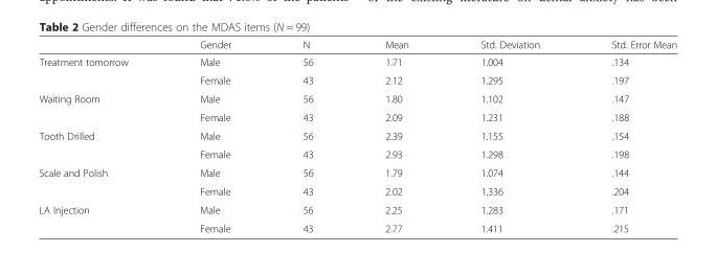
<table><thead><tr><td></td><td>Gender</td><td>N</td><td>Mean</td><td>Std. Deviation</td><td>Std. Error Mean</td></tr></thead><tbody><tr><td rowspan="2">Treatment tomorrow</td><td>Male</td><td>56</td><td>1.71</td><td>1.004</td><td>.134</td></tr><tr><td>Female</td><td>43</td><td>2.12</td><td>1.295</td><td>.197</td></tr><tr><td rowspan="2">Waiting Room</td><td>Male</td><td>56</td><td>1.80</td><td>1.102</td><td>.147</td></tr><tr><td>Female</td><td>43</td><td>2.09</td><td>1.231</td><td>.188</td></tr><tr><td rowspan="2">Tooth Drilled</td><td>Male</td><td>56</td><td>2.39</td><td>1.155</td><td>.154</td></tr><tr><td>Female</td><td>43</td><td>2.93</td><td>1.298</td><td>.198</td></tr><tr><td rowspan="2">Scale and Polish</td><td>Male</td><td>56</td><td>1.79</td><td>1.074</td><td>.144</td></tr><tr><td>Female</td><td>43</td><td>2.02</td><td>1.336</td><td>.204</td></tr><tr><td rowspan="2">LA Injection</td><td>Male</td><td>56</td><td>2.25</td><td>1.283</td><td>.171</td></tr><tr><td>Female</td><td>43</td><td>2.77</td><td>1.411</td><td>.215</td></tr></tbody></table>